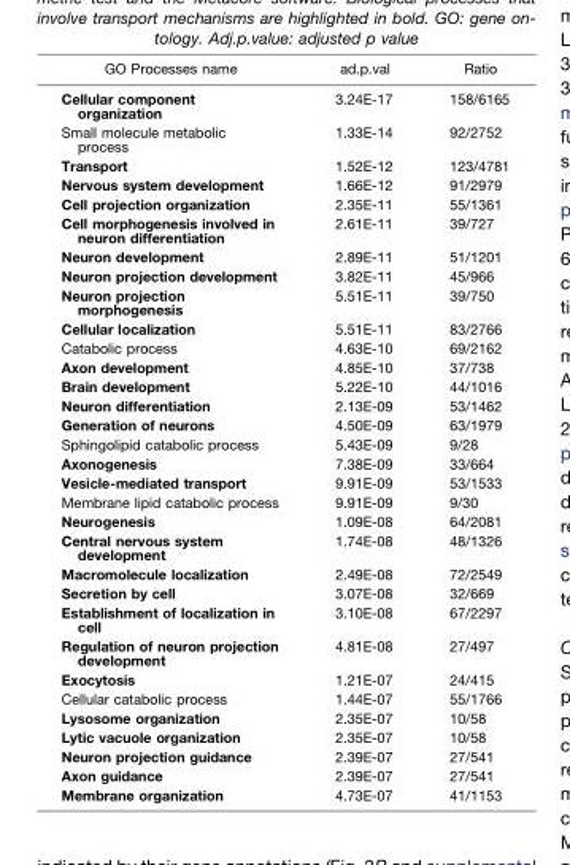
<table><thead><tr><td>GO Processes name</td><td>ad.p.val</td><td>Ratio</td></tr></thead><tbody><tr><td>Cellular component organization</td><td>3.24E-17</td><td>158/6165</td></tr><tr><td>Small molecule metabolic process</td><td>1.33E-14</td><td>92/2752</td></tr><tr><td>Transport</td><td>1.52E-12</td><td>123/4781</td></tr><tr><td>Nervous system development</td><td>1.66E-12</td><td>91/2979</td></tr><tr><td>Cell projection organization</td><td>2.35E-11</td><td>55/1361</td></tr><tr><td>Cell morphogenesis involved in neuron differentiation</td><td>2.61E-11</td><td>39/727</td></tr><tr><td>Neuron development</td><td>2.89E-11</td><td>51/1201</td></tr><tr><td>Neuron projection development</td><td>3.82E-11</td><td>45/966</td></tr><tr><td>Neuron projection morphogenesis</td><td>5.51E-11</td><td>39/750</td></tr><tr><td>Cellular localization</td><td>5.51E-11</td><td>83/2766</td></tr><tr><td>Catabolic process</td><td>4.63E-10</td><td>69/2162</td></tr><tr><td>Axon development</td><td>4.85E-10</td><td>37/738</td></tr><tr><td>Brain development</td><td>5.22E-10</td><td>44/1016</td></tr><tr><td>Neuron differentiation</td><td>2.13E-09</td><td>53/1462</td></tr><tr><td>Generation of neurons</td><td>4.50E-09</td><td>63/1979</td></tr><tr><td>Sphingolipid catabolic process</td><td>5.43E-09</td><td>9/28</td></tr><tr><td>Axonogenesis</td><td>7.38E-09</td><td>33/664</td></tr><tr><td>Vesicle-mediated transport</td><td>9.91E-09</td><td>53/1533</td></tr><tr><td>Membrane lipid catabolic process</td><td>9.91E-09</td><td>9/30</td></tr><tr><td>Neurogenesis</td><td>1.09E-08</td><td>64/2081</td></tr><tr><td>Central nervous system development</td><td>1.74E-08</td><td>48/1326</td></tr><tr><td>Macromolecule localization</td><td>2.49E-08</td><td>72/2549</td></tr><tr><td>Secretion by cell</td><td>3.07E-08</td><td>32/669</td></tr><tr><td>Establishment of localization in cell</td><td>3.10E-08</td><td>67/2297</td></tr><tr><td>Regulation of neuron projection development</td><td>4.81E-08</td><td>27/497</td></tr><tr><td>Exocytosis</td><td>1.21E-07</td><td>24/415</td></tr><tr><td>Cellular catabolic process</td><td>1.44E-07</td><td>55/1766</td></tr><tr><td>Lysosome organization</td><td>2.35E-07</td><td>10/58</td></tr><tr><td>Lytic vacuole organization</td><td>2.35E-07</td><td>10/58</td></tr><tr><td>Neuron projection guidance</td><td>2.39E-07</td><td>27/541</td></tr><tr><td>Axon guidance</td><td>2.39E-07</td><td>27/541</td></tr><tr><td>Membrane organization</td><td>4.73E-07</td><td>41/1153</td></tr></tbody></table>